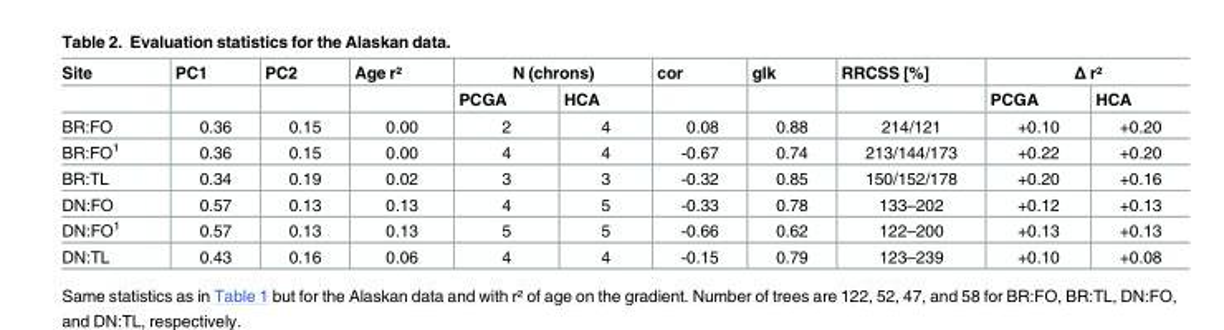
<table><thead><tr><td rowspan="2">Site</td><td rowspan="2">PC1</td><td rowspan="2">PC2</td><td rowspan="2">Age r²</td><td colspan="2">N (chrons)</td><td rowspan="2">cor</td><td rowspan="2">glk</td><td rowspan="2">RRCSS [%]</td><td colspan="2">Δ r²</td></tr><tr><td>PCGA</td><td>HCA</td><td>PCGA</td><td>HCA</td></tr></thead><tbody><tr><td>BR:FO</td><td>0.36</td><td>0.15</td><td>0.00</td><td>2</td><td>4</td><td>0.08</td><td>0.88</td><td>214/121</td><td>+0.10</td><td>+0.20</td></tr><tr><td>BR:FO<sup>1</sup></td><td>0.36</td><td>0.15</td><td>0.00</td><td>4</td><td>4</td><td>-0.67</td><td>0.74</td><td>213/144/173</td><td>+0.22</td><td>+0.20</td></tr><tr><td>BR:TL</td><td>0.34</td><td>0.19</td><td>0.02</td><td>3</td><td>3</td><td>-0.32</td><td>0.85</td><td>150/152/178</td><td>+0.20</td><td>+0.16</td></tr><tr><td>DN:FO</td><td>0.57</td><td>0.13</td><td>0.13</td><td>4</td><td>5</td><td>-0.33</td><td>0.78</td><td>133–202</td><td>+0.12</td><td>+0.13</td></tr><tr><td>DN:FO<sup>1</sup></td><td>0.57</td><td>0.13</td><td>0.13</td><td>5</td><td>5</td><td>-0.66</td><td>0.62</td><td>122–200</td><td>+0.13</td><td>+0.13</td></tr><tr><td>DN:TL</td><td>0.43</td><td>0.16</td><td>0.06</td><td>4</td><td>4</td><td>-0.15</td><td>0.79</td><td>123–239</td><td>+0.10</td><td>+0.08</td></tr></tbody></table>